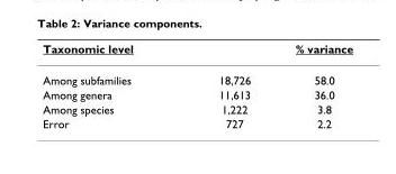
<table><thead><tr><td>Taxonomic level</td><td></td><td>% variance</td></tr></thead><tbody><tr><td>Among subfamilies</td><td>18,726</td><td>58.0</td></tr><tr><td>Among genera</td><td>11,613</td><td>36.0</td></tr><tr><td>Among species</td><td>1,222</td><td>3.8</td></tr><tr><td>Error</td><td>727</td><td>2.2</td></tr></tbody></table>